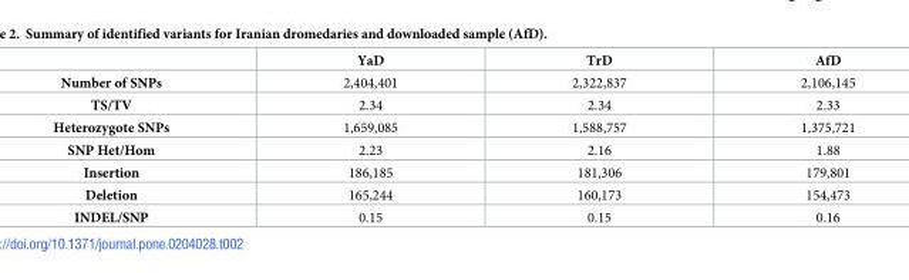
<table><thead><tr><td></td><td>YaD</td><td>TrD</td><td>AfD</td></tr></thead><tbody><tr><td>Number of SNPs</td><td>2,404,401</td><td>2,322,837</td><td>2,106,145</td></tr><tr><td>TS/TV</td><td>2.34</td><td>2.34</td><td>2.33</td></tr><tr><td>Heterozygote SNPs</td><td>1,659,085</td><td>1,588,757</td><td>1,375,721</td></tr><tr><td>SNP Het/Hom</td><td>2.23</td><td>2.16</td><td>1.88</td></tr><tr><td>Insertion</td><td>186,185</td><td>181,306</td><td>179,801</td></tr><tr><td>Deletion</td><td>165,244</td><td>160,173</td><td>154,473</td></tr><tr><td>INDEL/SNP</td><td>0.15</td><td>0.15</td><td>0.16</td></tr></tbody></table>